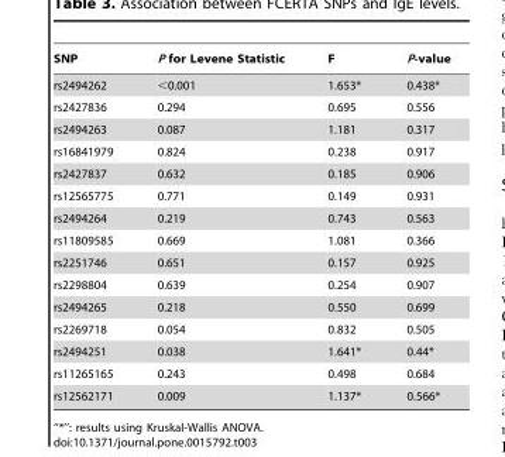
<table><thead><tr><td>SNP</td><td>P for Levene Statistic</td><td>F</td><td>P-value</td></tr></thead><tbody><tr><td>rs2494262</td><td>&lt;0.001</td><td>1.653*</td><td>0.438*</td></tr><tr><td>rs2427836</td><td>0.294</td><td>0.695</td><td>0.556</td></tr><tr><td>rs2494263</td><td>0.087</td><td>1.181</td><td>0.317</td></tr><tr><td>rs16841979</td><td>0.824</td><td>0.238</td><td>0.917</td></tr><tr><td>rs2427837</td><td>0.632</td><td>0.185</td><td>0.906</td></tr><tr><td>rs12565775</td><td>0.771</td><td>0.149</td><td>0.931</td></tr><tr><td>rs2494264</td><td>0.219</td><td>0.743</td><td>0.563</td></tr><tr><td>rs11809585</td><td>0.669</td><td>1.081</td><td>0.366</td></tr><tr><td>rs2251746</td><td>0.651</td><td>0.157</td><td>0.925</td></tr><tr><td>rs2298804</td><td>0.639</td><td>0.254</td><td>0.907</td></tr><tr><td>rs2494265</td><td>0.218</td><td>0.550</td><td>0.699</td></tr><tr><td>rs2269718</td><td>0.054</td><td>0.832</td><td>0.505</td></tr><tr><td>rs2494251</td><td>0.038</td><td>1.641*</td><td>0.44*</td></tr><tr><td>rs11265165</td><td>0.243</td><td>0.498</td><td>0.684</td></tr><tr><td>rs12562171</td><td>0.009</td><td>1.137*</td><td>0.566*</td></tr></tbody></table>